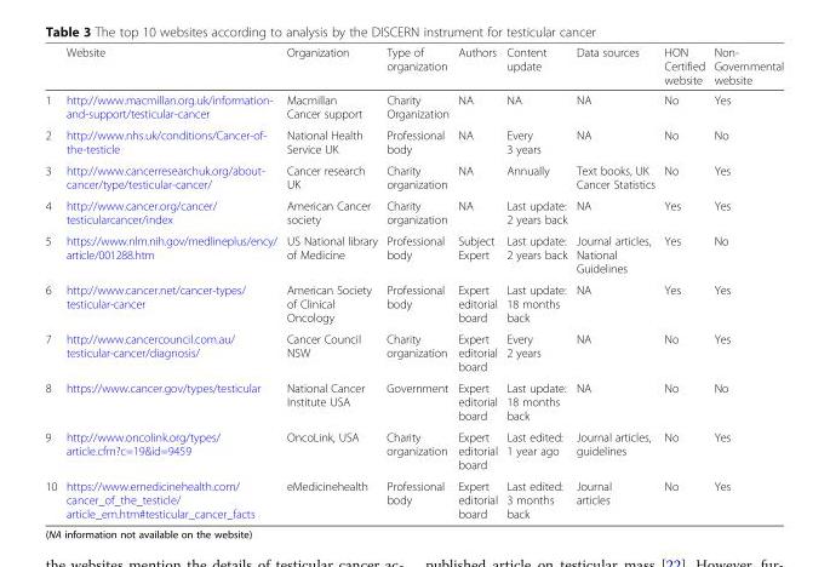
<table><thead><tr><td></td><td>Website</td><td>Organization</td><td>Type of organization</td><td>Authors</td><td>Content update</td><td>Data sources</td><td>HON Certified website</td><td>Non- Governmental website</td></tr></thead><tbody><tr><td>1</td><td>http://www.macmillan.org.uk/information- and-support/testicular-cancer</td><td>Macmillan Cancer support</td><td>Charity Organization</td><td>NA</td><td>NA</td><td>NA</td><td>No</td><td>Yes</td></tr><tr><td>2</td><td>http://www.nhs.uk/conditions/Cancer-of- the-testicle</td><td>National Health Service UK</td><td>Professional body</td><td>NA</td><td>Every 3 years</td><td>NA</td><td>No</td><td>No</td></tr><tr><td>3</td><td>http://www.cancerresearchuk.org/about- cancer/type/testicular-cancer/</td><td>Cancer research UK</td><td>Charity organization</td><td>NA</td><td>Annually</td><td>Text books, UK Cancer Statistics</td><td>No</td><td>Yes</td></tr><tr><td>4</td><td>http://www.cancer.org/cancer/ testicularcancer/index</td><td>American Cancer society</td><td>Charity organization</td><td>NA</td><td>Last update: 2 years back</td><td>NA</td><td>Yes</td><td>Yes</td></tr><tr><td>5</td><td>https://www.nlm.nih.gov/medlineplus/ency/ article/001288.htm</td><td>US National library of Medicine</td><td>Professional body</td><td>Subject Expert</td><td>Last update: 2 years back</td><td>Journal articles, National Guidelines</td><td>Yes</td><td>No</td></tr><tr><td>6</td><td>http://www.cancer.net/cancer-types/ testicular-cancer</td><td>American Society of Clinical Oncology</td><td>Professional body</td><td>Expert editorial board</td><td>Last update: 18 months back</td><td>NA</td><td>Yes</td><td>Yes</td></tr><tr><td>7</td><td>http://www.cancercouncil.com.au/ testicular-cancer/diagnosis/</td><td>Cancer Council NSW</td><td>Charity organization</td><td>Expert editorial board</td><td>Every 2 years</td><td>NA</td><td>No</td><td>Yes</td></tr><tr><td>8</td><td>https://www.cancer.gov/types/testicular</td><td>National Cancer Institute USA</td><td>Government</td><td>Expert editorial board</td><td>Last update: 18 months back</td><td>NA</td><td>No</td><td>No</td></tr><tr><td>9</td><td>http://www.oncolink.org/types/ article.cfm?c=19&amp;id=9459</td><td>OncoLink, USA</td><td>Charity organization</td><td>Expert editorial board</td><td>Last edited: 1 year ago</td><td>Journal articles, guidelines</td><td>No</td><td>Yes</td></tr><tr><td>10</td><td>https://www.emedicinehealth.com/ cancer_of_the_testicle/ article_em.htm#testicular_cancer_facts</td><td>eMedicinehealth</td><td>Professional body</td><td>Expert editorial board</td><td>Last edited: 3 months back</td><td>Journal articles</td><td>No</td><td>Yes</td></tr></tbody></table>